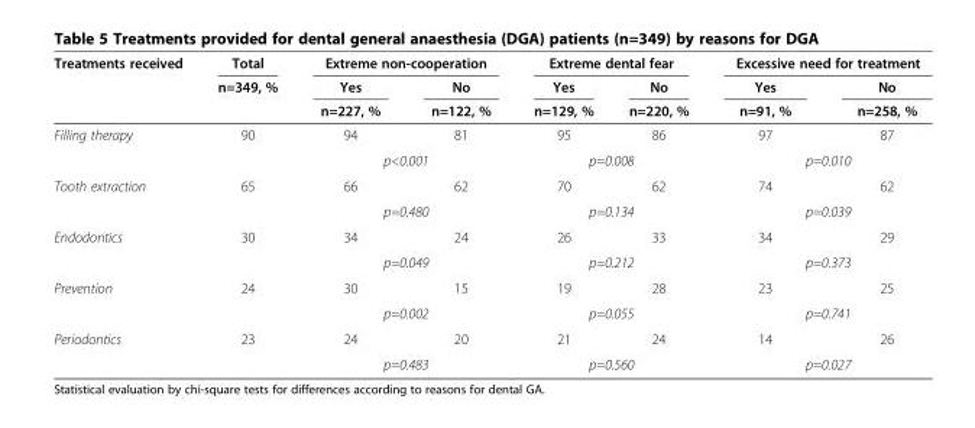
<table><thead><tr><td rowspan="3">Treatments received</td><td rowspan="3">Total n=349, %</td><td colspan="2">Extreme non-cooperation</td><td colspan="2">Extreme dental fear</td><td colspan="2">Excessive need for treatment</td></tr><tr><td rowspan="2">Yes n=227, %</td><td rowspan="2">No n=122, %</td><td rowspan="2">Yes n=129, %</td><td rowspan="2">No n=220, %</td><td rowspan="2">Yes n=91, %</td><td rowspan="2">No n=258, %</td></tr><tr></tr></thead><tbody><tr><td rowspan="2">Filling therapy</td><td>90</td><td>94</td><td>81</td><td>95</td><td>86</td><td>97</td><td>87</td></tr><tr><td></td><td colspan="2">p&lt;0.001</td><td colspan="2">p=0.008</td><td colspan="2">p=0.010</td></tr><tr><td rowspan="2">Tooth extraction</td><td>65</td><td>66</td><td>62</td><td>70</td><td>62</td><td>74</td><td>62</td></tr><tr><td></td><td colspan="2">p=0.480</td><td colspan="2">p=0.134</td><td colspan="2">p=0.039</td></tr><tr><td rowspan="2">Endodontics</td><td>30</td><td>34</td><td>24</td><td>26</td><td>33</td><td>34</td><td>29</td></tr><tr><td></td><td colspan="2">p=0.049</td><td colspan="2">p=0.212</td><td colspan="2">p=0.373</td></tr><tr><td rowspan="2">Prevention</td><td>24</td><td>30</td><td>15</td><td>19</td><td>28</td><td>23</td><td>25</td></tr><tr><td></td><td colspan="2">p=0.002</td><td colspan="2">p=0.055</td><td colspan="2">p=0.741</td></tr><tr><td rowspan="2">Periodontics</td><td>23</td><td>24</td><td>20</td><td>21</td><td>24</td><td>14</td><td>26</td></tr><tr><td></td><td colspan="2">p=0.483</td><td colspan="2">p=0.560</td><td colspan="2">p=0.027</td></tr></tbody></table>